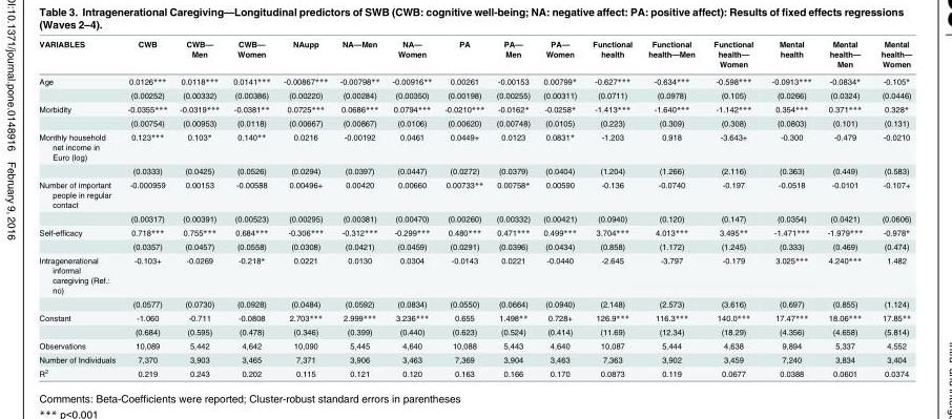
<table><thead><tr><td>VARIABLES</td><td>CWB</td><td>CWB— Men</td><td>CWB— Women</td><td>NAupp</td><td>NA—Men</td><td>NA— Women</td><td>PA</td><td>PA— Men</td><td>PA— Women</td><td>Functional health</td><td>Functional health—Men</td><td>Functional health— Women</td><td>Mental health</td><td>Mental health— Men</td><td>Mental health— Women</td></tr></thead><tbody><tr><td rowspan="2">Age</td><td>0.0126***</td><td>0.0118***</td><td>0.0141***</td><td>-0.00867***</td><td>-0.00798**</td><td>-0.00916**</td><td>0.00261</td><td>-0.00153</td><td>0.00799*</td><td>-0.627***</td><td>-0.634***</td><td>-0.598***</td><td>-0.0913***</td><td>-0.0834*</td><td>-0.105*</td></tr><tr><td>(0.00252)</td><td>(0.00332)</td><td>(0.00386)</td><td>(0.00220)</td><td>(0.00284)</td><td>(0.00350)</td><td>(0.00198)</td><td>(0.00255)</td><td>(0.00311)</td><td>(0.0711)</td><td>(0.0978)</td><td>(0.105)</td><td>(0.0266)</td><td>(0.0324)</td><td>(0.0446)</td></tr><tr><td rowspan="2">Morbidity</td><td>-0.0355***</td><td>-0.0319***</td><td>-0.0381**</td><td>0.0725***</td><td>0.0686***</td><td>0.0794***</td><td>-0.0210***</td><td>-0.0162*</td><td>-0.0258*</td><td>-1.413***</td><td>-1.640***</td><td>-1.142***</td><td>0.354***</td><td>0.371***</td><td>0.328*</td></tr><tr><td>(0.00754)</td><td>(0.00953)</td><td>(0.0118)</td><td>(0.00667)</td><td>(0.00867)</td><td>(0.0106)</td><td>(0.00620)</td><td>(0.00748)</td><td>(0.0105)</td><td>(0.223)</td><td>(0.309)</td><td>(0.308)</td><td>(0.0803)</td><td>(0.101)</td><td>(0.131)</td></tr><tr><td rowspan="2">Monthly household net income in Euro (log)</td><td>0.123***</td><td>0.103*</td><td>0.140**</td><td>0.0216</td><td>-0.00192</td><td>0.0461</td><td>0.0449+</td><td>0.0123</td><td>0.0831*</td><td>-1.203</td><td>0.918</td><td>-3.643+</td><td>-0.300</td><td>-0.479</td><td>-0.0210</td></tr><tr><td>(0.0333)</td><td>(0.0425)</td><td>(0.0526)</td><td>(0.0294)</td><td>(0.0397)</td><td>(0.0447)</td><td>(0.0272)</td><td>(0.0379)</td><td>(0.0404)</td><td>(1.204)</td><td>(1.266)</td><td>(2.116)</td><td>(0.363)</td><td>(0.449)</td><td>(0.583)</td></tr><tr><td rowspan="2">Number of important people in regular contact</td><td>-0.000959</td><td>0.00153</td><td>-0.00588</td><td>0.00496+</td><td>0.00420</td><td>0.00660</td><td>0.00733**</td><td>0.00758*</td><td>0.00590</td><td>-0.136</td><td>-0.0740</td><td>-0.197</td><td>-0.0518</td><td>-0.0101</td><td>-0.107+</td></tr><tr><td>(0.00317)</td><td>(0.00391)</td><td>(0.00523)</td><td>(0.00295)</td><td>(0.00381)</td><td>(0.00470)</td><td>(0.00260)</td><td>(0.00332)</td><td>(0.00421)</td><td>(0.0940)</td><td>(0.120)</td><td>(0.147)</td><td>(0.0354)</td><td>(0.0421)</td><td>(0.0606)</td></tr><tr><td rowspan="2">Self-efficacy</td><td>0.718***</td><td>0.755***</td><td>0.684***</td><td>-0.306***</td><td>-0.312***</td><td>-0.299***</td><td>0.480***</td><td>0.471***</td><td>0.499***</td><td>3.704***</td><td>4.013***</td><td>3.495**</td><td>-1.471***</td><td>-1.979***</td><td>-0.978*</td></tr><tr><td>(0.0357)</td><td>(0.0457)</td><td>(0.0558)</td><td>(0.0308)</td><td>(0.0421)</td><td>(0.0459)</td><td>(0.0291)</td><td>(0.0396)</td><td>(0.0434)</td><td>(0.858)</td><td>(1.172)</td><td>(1.245)</td><td>(0.333)</td><td>(0.469)</td><td>(0.474)</td></tr><tr><td rowspan="2">Intragenerational informal caregiving (Ref.: no)</td><td>-0.103+</td><td>-0.0269</td><td>-0.218*</td><td>0.0221</td><td>0.0130</td><td>0.0304</td><td>-0.0143</td><td>0.0221</td><td>-0.0440</td><td>-2.645</td><td>-3.797</td><td>-0.179</td><td>3.025***</td><td>4.240***</td><td>1.482</td></tr><tr><td>(0.0577)</td><td>(0.0730)</td><td>(0.0928)</td><td>(0.0484)</td><td>(0.0592)</td><td>(0.0834)</td><td>(0.0550)</td><td>(0.0664)</td><td>(0.0940)</td><td>(2.148)</td><td>(2.573)</td><td>(3.616)</td><td>(0.697)</td><td>(0.855)</td><td>(1.124)</td></tr><tr><td rowspan="2">Constant</td><td>-1.060</td><td>-0.711</td><td>-0.0808</td><td>2.703***</td><td>2.999***</td><td>3.236***</td><td>0.655</td><td>1.498**</td><td>0.728+</td><td>126.9***</td><td>116.3***</td><td>140.0***</td><td>17.47***</td><td>18.06***</td><td>17.85**</td></tr><tr><td>(0.684)</td><td>(0.595)</td><td>(0.478)</td><td>(0.346)</td><td>(0.399)</td><td>(0.440)</td><td>(0.623)</td><td>(0.524)</td><td>(0.414)</td><td>(11.69)</td><td>(12.34)</td><td>(18.29)</td><td>(4.356)</td><td>(4.658)</td><td>(5.814)</td></tr><tr><td>Observations</td><td>10,089</td><td>5,442</td><td>4,642</td><td>10,090</td><td>5,445</td><td>4,640</td><td>10,088</td><td>5,443</td><td>4,640</td><td>10,087</td><td>5,444</td><td>4,638</td><td>9,894</td><td>5,337</td><td>4,552</td></tr><tr><td>Number of Individuals</td><td>7,370</td><td>3,903</td><td>3,465</td><td>7,371</td><td>3,906</td><td>3,463</td><td>7,369</td><td>3,904</td><td>3,463</td><td>7,363</td><td>3,902</td><td>3,459</td><td>7,240</td><td>3,834</td><td>3,404</td></tr><tr><td>R<sup>2</sup></td><td>0.219</td><td>0.243</td><td>0.202</td><td>0.115</td><td>0.121</td><td>0.120</td><td>0.163</td><td>0.166</td><td>0.170</td><td>0.0873</td><td>0.119</td><td>0.0677</td><td>0.0388</td><td>0.0601</td><td>0.0374</td></tr></tbody></table>